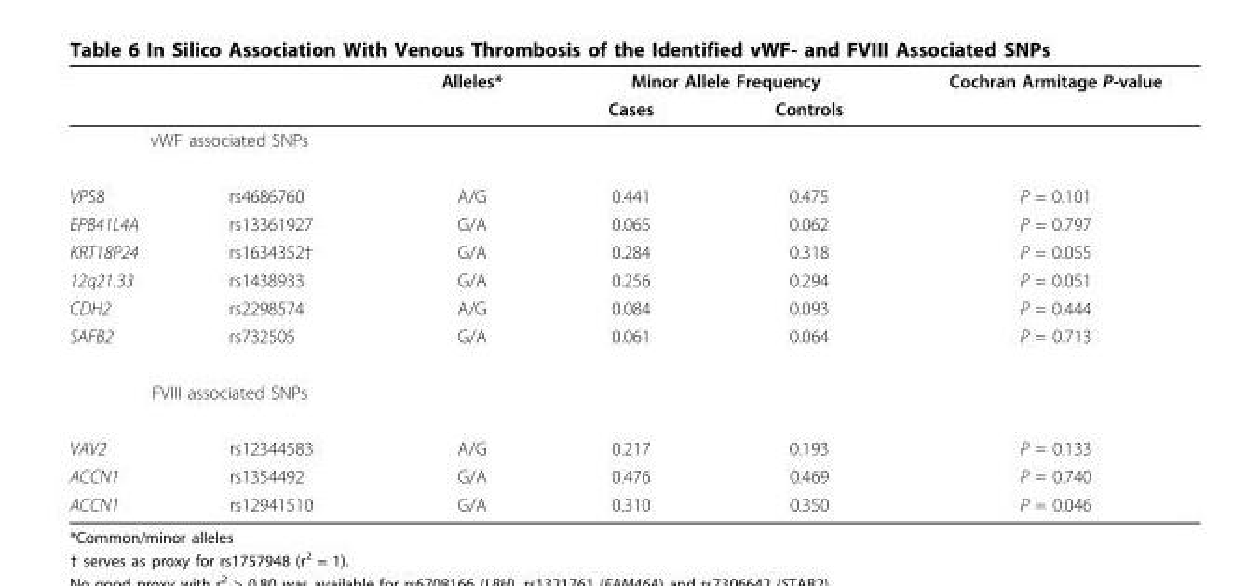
<table><thead><tr><td rowspan="2"></td><td rowspan="2"></td><td rowspan="2">Alleles*</td><td colspan="2">Minor Allele Frequency</td><td rowspan="2">Cochran Armitage P-value</td></tr><tr><td>Cases</td><td>Controls</td></tr></thead><tbody><tr><td colspan="6">vWF associated SNPs</td></tr><tr><td>VPS8</td><td>rs4686760</td><td>A/G</td><td>0.441</td><td>0.475</td><td>P = 0.101</td></tr><tr><td>EPB41L4A</td><td>rs13361927</td><td>G/A</td><td>0.065</td><td>0.062</td><td>P = 0.797</td></tr><tr><td>KRT18P24</td><td>rs1634352†</td><td>G/A</td><td>0.284</td><td>0.318</td><td>P = 0.055</td></tr><tr><td>12q21.33</td><td>rs1438933</td><td>G/A</td><td>0.256</td><td>0.294</td><td>P = 0.051</td></tr><tr><td>CDH2</td><td>rs2298574</td><td>A/G</td><td>0.084</td><td>0.093</td><td>P = 0.444</td></tr><tr><td>SAFB2</td><td>rs732505</td><td>G/A</td><td>0.061</td><td>0.064</td><td>P = 0.713</td></tr><tr><td colspan="6">FVIII associated SNPs</td></tr><tr><td>VAV2</td><td>rs12344583</td><td>A/G</td><td>0.217</td><td>0.193</td><td>P = 0.133</td></tr><tr><td>ACCN1</td><td>rs1354492</td><td>G/A</td><td>0.476</td><td>0.469</td><td>P = 0.740</td></tr><tr><td>ACCN1</td><td>rs12941510</td><td>G/A</td><td>0.310</td><td>0.350</td><td>P = 0.046</td></tr></tbody></table>